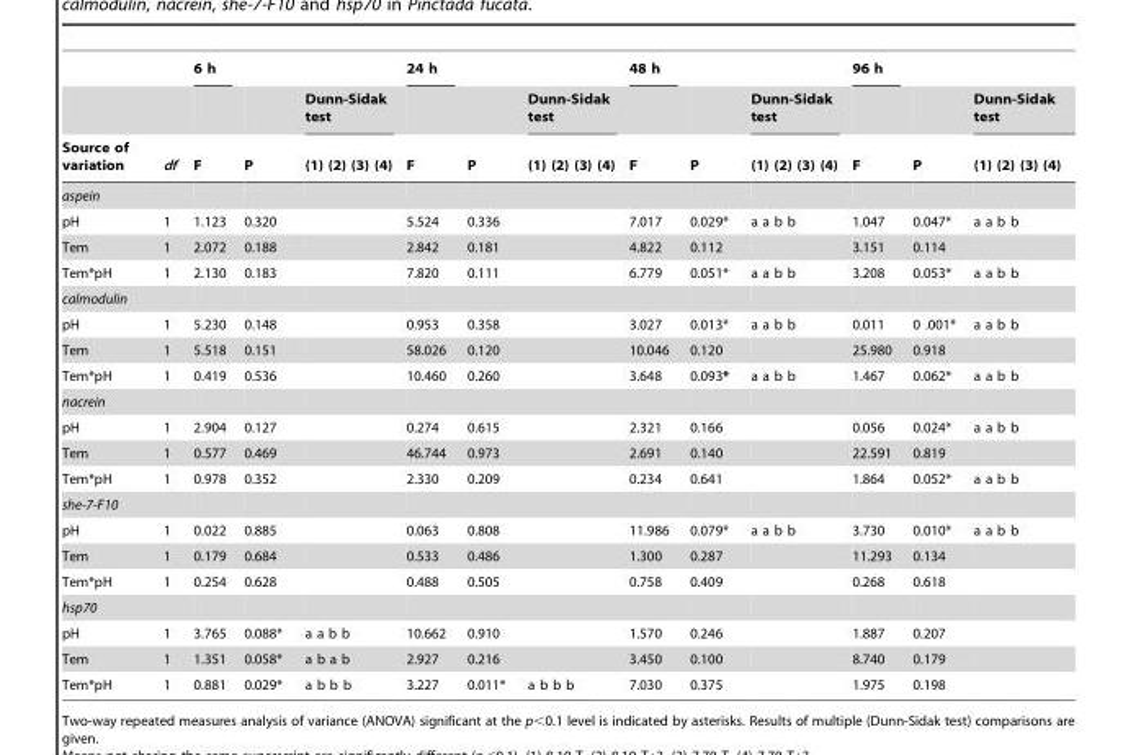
<table><thead><tr><td rowspan="3">Source of variation</td><td rowspan="3">df</td><td rowspan="3">6 h F</td><td rowspan="3">P</td><td rowspan="3">Dunn-Sidak test (1) (2) (3) (4)</td><td rowspan="3">24 h F</td><td rowspan="3">P</td><td rowspan="3">Dunn-Sidak test (1) (2) (3) (4)</td><td rowspan="3">48 h F</td><td rowspan="3">P</td><td rowspan="3">Dunn-Sidak test (1) (2) (3) (4)</td><td rowspan="3">96 h F</td><td rowspan="3">P</td><td rowspan="3">Dunn-Sidak test (1) (2) (3) (4)</td></tr><tr></tr><tr></tr></thead><tbody><tr><td colspan="14">aspein</td></tr><tr><td>pH</td><td>1</td><td>1.123</td><td>0.320</td><td></td><td>5.524</td><td>0.336</td><td></td><td>7.017</td><td>0.029*</td><td>a a b b</td><td>1.047</td><td>0.047*</td><td>a a b b</td></tr><tr><td>Tem</td><td>1</td><td>2.072</td><td>0.188</td><td></td><td>2.842</td><td>0.181</td><td></td><td>4.822</td><td>0.112</td><td></td><td>3.151</td><td>0.114</td><td></td></tr><tr><td>Tem*pH</td><td>1</td><td>2.130</td><td>0.183</td><td></td><td>7.820</td><td>0.111</td><td></td><td>6.779</td><td>0.051*</td><td>a a b b</td><td>3.208</td><td>0.053*</td><td>a a b b</td></tr><tr><td colspan="14">calmodulin</td></tr><tr><td>pH</td><td>1</td><td>5.230</td><td>0.148</td><td></td><td>0.953</td><td>0.358</td><td></td><td>3.027</td><td>0.013*</td><td>a a b b</td><td>0.011</td><td>0 .001*</td><td>a a b b</td></tr><tr><td>Tem</td><td>1</td><td>5.518</td><td>0.151</td><td></td><td>58.026</td><td>0.120</td><td></td><td>10.046</td><td>0.120</td><td></td><td>25.980</td><td>0.918</td><td></td></tr><tr><td>Tem*pH</td><td>1</td><td>0.419</td><td>0.536</td><td></td><td>10.460</td><td>0.260</td><td></td><td>3.648</td><td>0.093*</td><td>a a b b</td><td>1.467</td><td>0.062*</td><td>a a b b</td></tr><tr><td colspan="14">nacrein</td></tr><tr><td>pH</td><td>1</td><td>2.904</td><td>0.127</td><td></td><td>0.274</td><td>0.615</td><td></td><td>2.321</td><td>0.166</td><td></td><td>0.056</td><td>0.024*</td><td>a a b b</td></tr><tr><td>Tem</td><td>1</td><td>0.577</td><td>0.469</td><td></td><td>46.744</td><td>0.973</td><td></td><td>2.691</td><td>0.140</td><td></td><td>22.591</td><td>0.819</td><td></td></tr><tr><td>Tem*pH</td><td>1</td><td>0.978</td><td>0.352</td><td></td><td>2.330</td><td>0.209</td><td></td><td>0.234</td><td>0.641</td><td></td><td>1.864</td><td>0.052*</td><td>a a b b</td></tr><tr><td colspan="14">she-7-F10</td></tr><tr><td>pH</td><td>1</td><td>0.022</td><td>0.885</td><td></td><td>0.063</td><td>0.808</td><td></td><td>11.986</td><td>0.079*</td><td>a a b b</td><td>3.730</td><td>0.010*</td><td>a a b b</td></tr><tr><td>Tem</td><td>1</td><td>0.179</td><td>0.684</td><td></td><td>0.533</td><td>0.486</td><td></td><td>1.300</td><td>0.287</td><td></td><td>11.293</td><td>0.134</td><td></td></tr><tr><td>Tem*pH</td><td>1</td><td>0.254</td><td>0.628</td><td></td><td>0.488</td><td>0.505</td><td></td><td>0.758</td><td>0.409</td><td></td><td>0.268</td><td>0.618</td><td></td></tr><tr><td colspan="14">hsp70</td></tr><tr><td>pH</td><td>1</td><td>3.765</td><td>0.088*</td><td>a a b b</td><td>10.662</td><td>0.910</td><td></td><td>1.570</td><td>0.246</td><td></td><td>1.887</td><td>0.207</td><td></td></tr><tr><td>Tem</td><td>1</td><td>1.351</td><td>0.058*</td><td>a b a b</td><td>2.927</td><td>0.216</td><td></td><td>3.450</td><td>0.100</td><td></td><td>8.740</td><td>0.179</td><td></td></tr><tr><td>Tem*pH</td><td>1</td><td>0.881</td><td>0.029*</td><td>a b b b</td><td>3.227</td><td>0.011*</td><td>a b b b</td><td>7.030</td><td>0.375</td><td></td><td>1.975</td><td>0.198</td><td></td></tr></tbody></table>